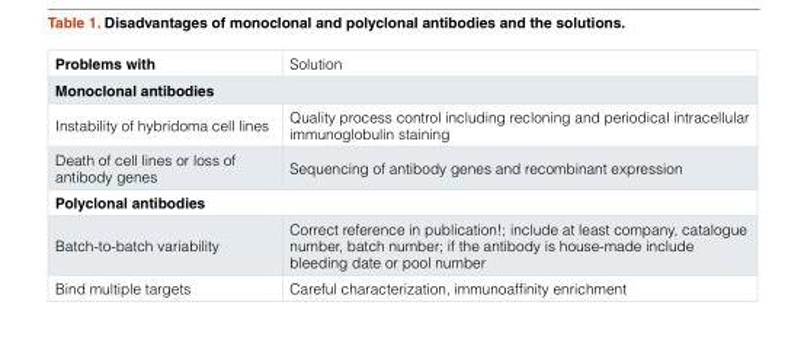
<table><tbody><tr><td>Problems with</td><td>Solution</td></tr><tr><td colspan="2">Monoclonal antibodies</td></tr><tr><td>Instability of hybridoma cell lines</td><td>Quality process control including recloning and periodical intracellular immunoglobulin staining</td></tr><tr><td>Death of cell lines or loss of antibody genes</td><td>Sequencing of antibody genes and recombinant expression</td></tr><tr><td colspan="2">Polyclonal antibodies</td></tr><tr><td>Batch-to-batch variability</td><td>Correct reference in publication!; include at least company, catalogue number, batch number; if the antibody is house-made include bleeding date or pool number</td></tr><tr><td>Bind multiple targets</td><td>Careful characterization, immunoaffinity enrichment</td></tr></tbody></table>